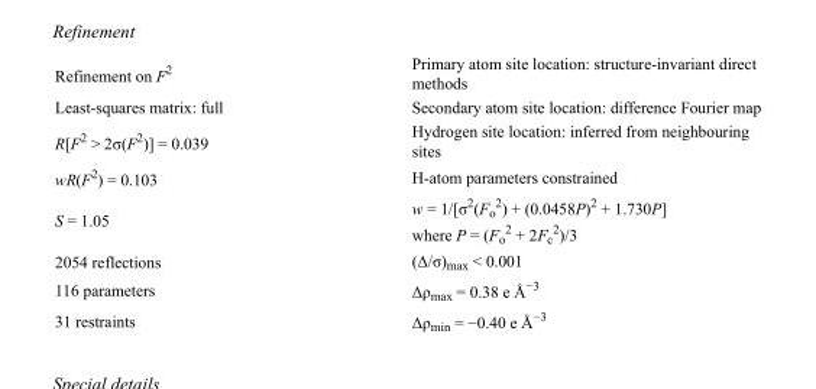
<table><tbody><tr><td>Refinement on F<sup>2</sup></td><td>Primary atom site location: structure-invariant direct methods</td></tr><tr><td>Least-squares matrix: full</td><td>Secondary atom site location: difference Fourier map</td></tr><tr><td>R[F<sup>2</sup> &gt; 2σ(F<sup>2</sup>)] = 0.039</td><td>Hydrogen site location: inferred from neighbouring sites</td></tr><tr><td>wR(F<sup>2</sup>) = 0.103</td><td>H-atom parameters constrained</td></tr><tr><td>S = 1.05</td><td>w = 1/[σ<sup>2</sup>(F<sub>o</sub> <sup>2</sup>) + (0.0458P)<sup>2</sup> + 1.730P] where P = (F<sub>o</sub> <sup>2</sup> + 2F<sub>c</sub> <sup>2</sup>)/3</td></tr><tr><td>2054 reflections</td><td>(Δ/σ)<sub>max</sub> &lt; 0.001</td></tr><tr><td>116 parameters</td><td>Δρ<sub>max</sub> = 0.38 e Å<sup>−3</sup></td></tr><tr><td>31 restraints</td><td>Δρ<sub>min</sub> = −0.40 e Å<sup>−3</sup></td></tr></tbody></table>